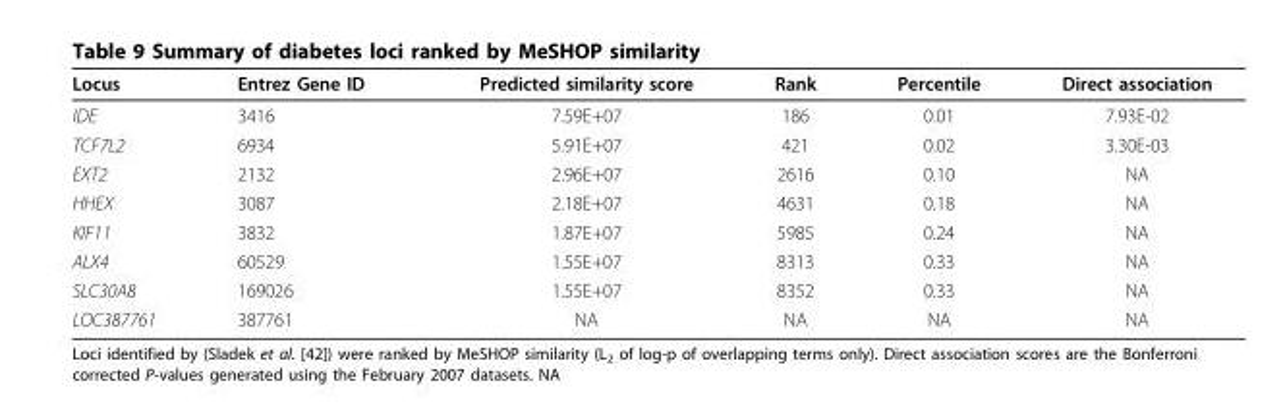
<table><thead><tr><td>Locus</td><td>Entrez Gene ID</td><td>Predicted similarity score</td><td>Rank</td><td>Percentile</td><td>Direct association</td></tr></thead><tbody><tr><td>IDE</td><td>3416</td><td>7.59E+07</td><td>186</td><td>0.01</td><td>7.93E-02</td></tr><tr><td>TCF7L2</td><td>6934</td><td>5.91E+07</td><td>421</td><td>0.02</td><td>3.30E-03</td></tr><tr><td>EXT2</td><td>2132</td><td>2.96E+07</td><td>2616</td><td>0.10</td><td>NA</td></tr><tr><td>HHEX</td><td>3087</td><td>2.18E+07</td><td>4631</td><td>0.18</td><td>NA</td></tr><tr><td>KIF11</td><td>3832</td><td>1.87E+07</td><td>5985</td><td>0.24</td><td>NA</td></tr><tr><td>ALX4</td><td>60529</td><td>1.55E+07</td><td>8313</td><td>0.33</td><td>NA</td></tr><tr><td>SLC30A8</td><td>169026</td><td>1.55E+07</td><td>8352</td><td>0.33</td><td>NA</td></tr><tr><td>LOC387761</td><td>387761</td><td>NA</td><td>NA</td><td>NA</td><td>NA</td></tr></tbody></table>